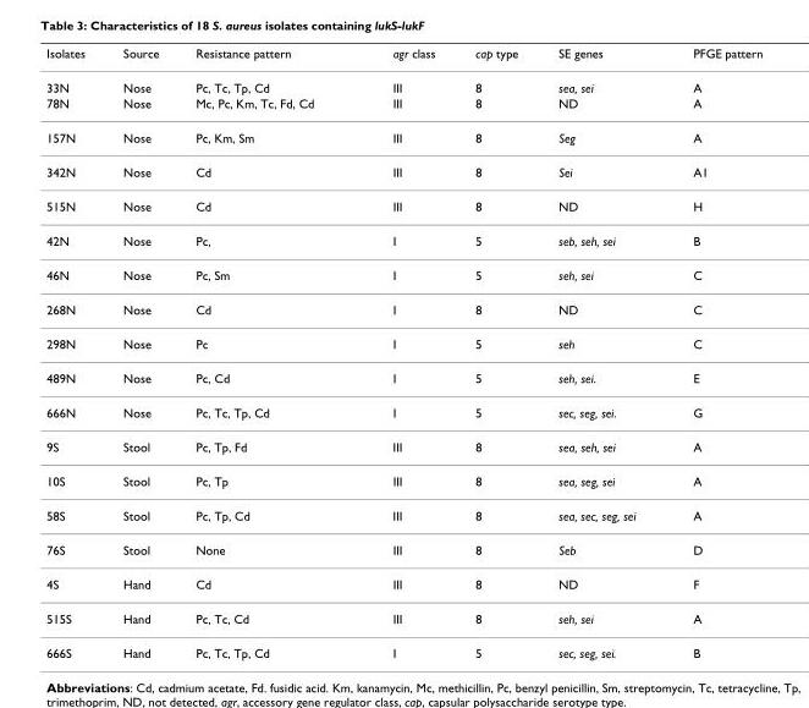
<table><thead><tr><td>Isolates</td><td>Source</td><td>Resistance pattern</td><td>agr class</td><td>cap type</td><td>SE genes</td><td>PFGE pattern</td></tr></thead><tbody><tr><td>33N</td><td>Nose</td><td>Pc, Tc, Tp, Cd</td><td>III</td><td>8</td><td>sea, sei</td><td>A</td></tr><tr><td>78N</td><td>Nose</td><td>Mc, Pc, Km, Tc, Fd, Cd</td><td>III</td><td>8</td><td>ND</td><td>A</td></tr><tr><td>157N</td><td>Nose</td><td>Pc, Km, Sm</td><td>III</td><td>8</td><td>Seg</td><td>A</td></tr><tr><td>342N</td><td>Nose</td><td>Cd</td><td>III</td><td>8</td><td>Sei</td><td>A1</td></tr><tr><td>515N</td><td>Nose</td><td>Cd</td><td>III</td><td>8</td><td>ND</td><td>H</td></tr><tr><td>42N</td><td>Nose</td><td>Pc,</td><td>I</td><td>5</td><td>seb, seh, sei</td><td>B</td></tr><tr><td>46N</td><td>Nose</td><td>Pc, Sm</td><td>I</td><td>5</td><td>seh, sei</td><td>C</td></tr><tr><td>268N</td><td>Nose</td><td>Cd</td><td>I</td><td>8</td><td>ND</td><td>C</td></tr><tr><td>298N</td><td>Nose</td><td>Pc</td><td>I</td><td>5</td><td>seh</td><td>C</td></tr><tr><td>489N</td><td>Nose</td><td>Pc, Cd</td><td>I</td><td>5</td><td>seh, sei.</td><td>E</td></tr><tr><td>666N</td><td>Nose</td><td>Pc, Tc, Tp, Cd</td><td>I</td><td>5</td><td>sec, seg, sei.</td><td>G</td></tr><tr><td>9S</td><td>Stool</td><td>Pc, Tp, Fd</td><td>III</td><td>8</td><td>sea, seh, sei</td><td>A</td></tr><tr><td>10S</td><td>Stool</td><td>Pc, Tp</td><td>III</td><td>8</td><td>sea, seg, sei</td><td>A</td></tr><tr><td>58S</td><td>Stool</td><td>Pc, Tp, Cd</td><td>III</td><td>8</td><td>sea, sec, seg, sei</td><td>A</td></tr><tr><td>76S</td><td>Stool</td><td>None</td><td>III</td><td>8</td><td>Seb</td><td>D</td></tr><tr><td>4S</td><td>Hand</td><td>Cd</td><td>III</td><td>8</td><td>ND</td><td>F</td></tr><tr><td>515S</td><td>Hand</td><td>Pc, Tc, Cd</td><td>III</td><td>8</td><td>seh, sei</td><td>A</td></tr><tr><td>666S</td><td>Hand</td><td>Pc, Tc, Tp, Cd</td><td>I</td><td>5</td><td>sec, seg, sei.</td><td>B</td></tr></tbody></table>